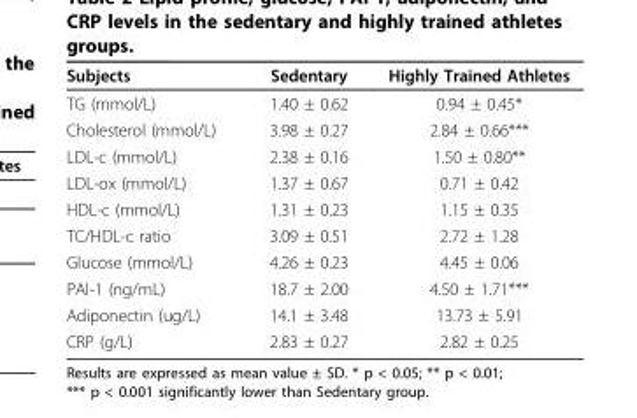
<table><thead><tr><td>Subjects</td><td>Sedentary</td><td>Highly Trained Athletes</td></tr></thead><tbody><tr><td>TG (mmol/L)</td><td>1.40 ± 0.62</td><td>0.94 ± 0.45*</td></tr><tr><td>Cholesterol (mmol/L)</td><td>3.98 ± 0.27</td><td>2.84 ± 0.66***</td></tr><tr><td>LDL-c (mmol/L)</td><td>2.38 ± 0.16</td><td>1.50 ± 0.80**</td></tr><tr><td>LDL-ox (mmol/L)</td><td>1.37 ± 0.67</td><td>0.71 ± 0.42</td></tr><tr><td>HDL-c (mmol/L)</td><td>1.31 ± 0.23</td><td>1.15 ± 0.35</td></tr><tr><td>TC/HDL-c ratio</td><td>3.09 ± 0.51</td><td>2.72 ± 1.28</td></tr><tr><td>Glucose (mmol/L)</td><td>4.26 ± 0.23</td><td>4.45 ± 0.06</td></tr><tr><td>PAI-1 (ng/mL)</td><td>18.7 ± 2.00</td><td>4.50 ± 1.71***</td></tr><tr><td>Adiponectin (ug/L)</td><td>14.1 ± 3.48</td><td>13.73 ± 5.91</td></tr><tr><td>CRP (g/L)</td><td>2.83 ± 0.27</td><td>2.82 ± 0.25</td></tr></tbody></table>